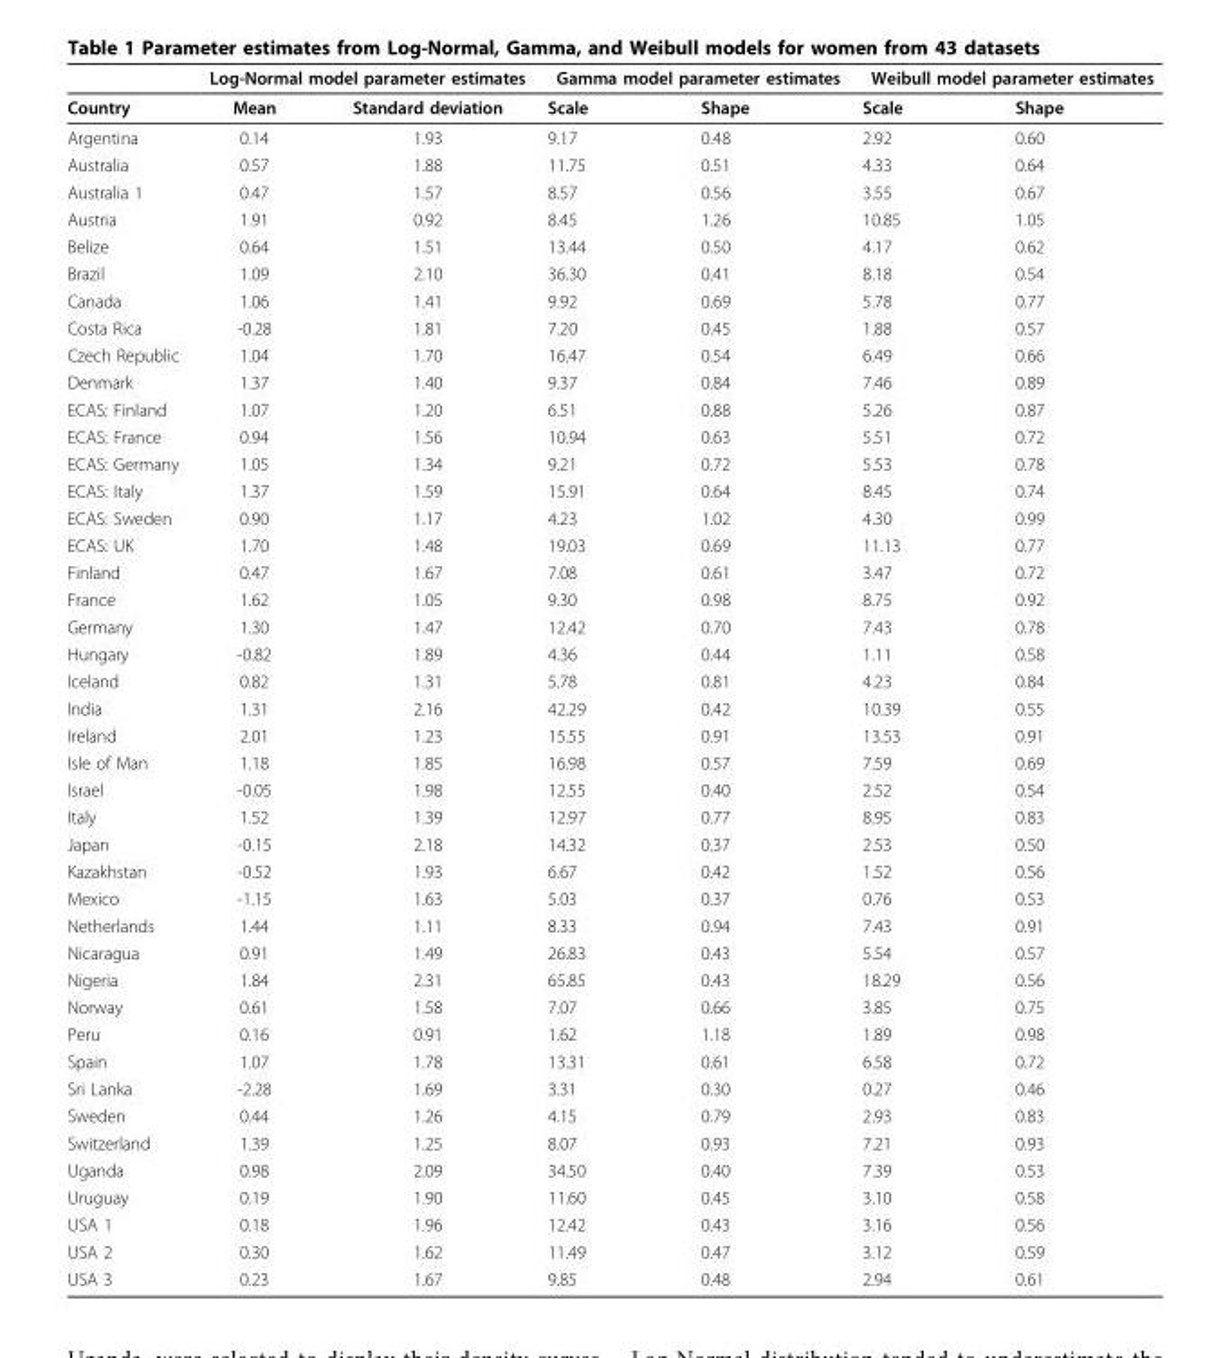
<table><thead><tr><td rowspan="2">Country</td><td colspan="2">Log-Normal model parameter estimates</td><td colspan="2">Gamma model parameter estimates</td><td colspan="2">Weibull model parameter estimates</td></tr><tr><td>Mean</td><td>Standard deviation</td><td>Scale</td><td>Shape</td><td>Scale</td><td>Shape</td></tr></thead><tbody><tr><td>Argentina</td><td>0.14</td><td>1.93</td><td>9.17</td><td>0.48</td><td>2.92</td><td>0.60</td></tr><tr><td>Australia</td><td>0.57</td><td>1.88</td><td>11.75</td><td>0.51</td><td>4.33</td><td>0.64</td></tr><tr><td>Australia 1</td><td>0.47</td><td>1.57</td><td>8.57</td><td>0.56</td><td>3.55</td><td>0.67</td></tr><tr><td>Austria</td><td>1.91</td><td>0.92</td><td>8.45</td><td>1.26</td><td>10.85</td><td>1.05</td></tr><tr><td>Belize</td><td>0.64</td><td>1.51</td><td>13.44</td><td>0.50</td><td>4.17</td><td>0.62</td></tr><tr><td>Brazil</td><td>1.09</td><td>2.10</td><td>36.30</td><td>0.41</td><td>8.18</td><td>0.54</td></tr><tr><td>Canada</td><td>1.06</td><td>1.41</td><td>9.92</td><td>0.69</td><td>5.78</td><td>0.77</td></tr><tr><td>Costa Rica</td><td>-0.28</td><td>1.81</td><td>7.20</td><td>0.45</td><td>1.88</td><td>0.57</td></tr><tr><td>Czech Republic</td><td>1.04</td><td>1.70</td><td>16.47</td><td>0.54</td><td>6.49</td><td>0.66</td></tr><tr><td>Denmark</td><td>1.37</td><td>1.40</td><td>9.37</td><td>0.84</td><td>7.46</td><td>0.89</td></tr><tr><td>ECAS: Finland</td><td>1.07</td><td>1.20</td><td>6.51</td><td>0.88</td><td>5.26</td><td>0.87</td></tr><tr><td>ECAS: France</td><td>0.94</td><td>1.56</td><td>10.94</td><td>0.63</td><td>5.51</td><td>0.72</td></tr><tr><td>ECAS: Germany</td><td>1.05</td><td>1.34</td><td>9.21</td><td>0.72</td><td>5.53</td><td>0.78</td></tr><tr><td>ECAS: Italy</td><td>1.37</td><td>1.59</td><td>15.91</td><td>0.64</td><td>8.45</td><td>0.74</td></tr><tr><td>ECAS: Sweden</td><td>0.90</td><td>1.17</td><td>4.23</td><td>1.02</td><td>4.30</td><td>0.99</td></tr><tr><td>ECAS: UK</td><td>1.70</td><td>1.48</td><td>19.03</td><td>0.69</td><td>11.13</td><td>0.77</td></tr><tr><td>Finland</td><td>0.47</td><td>1.67</td><td>7.08</td><td>0.61</td><td>3.47</td><td>0.72</td></tr><tr><td>France</td><td>1.62</td><td>1.05</td><td>9.30</td><td>0.98</td><td>8.75</td><td>0.92</td></tr><tr><td>Germany</td><td>1.30</td><td>1.47</td><td>12.42</td><td>0.70</td><td>7.43</td><td>0.78</td></tr><tr><td>Hungary</td><td>-0.82</td><td>1.89</td><td>4.36</td><td>0.44</td><td>1.11</td><td>0.58</td></tr><tr><td>Iceland</td><td>0.82</td><td>1.31</td><td>5.78</td><td>0.81</td><td>4.23</td><td>0.84</td></tr><tr><td>India</td><td>1.31</td><td>2.16</td><td>42.29</td><td>0.42</td><td>10.39</td><td>0.55</td></tr><tr><td>Ireland</td><td>2.01</td><td>1.23</td><td>15.55</td><td>0.91</td><td>13.53</td><td>0.91</td></tr><tr><td>Isle of Man</td><td>1.18</td><td>1.85</td><td>16.98</td><td>0.57</td><td>7.59</td><td>0.69</td></tr><tr><td>Israel</td><td>-0.05</td><td>1.98</td><td>12.55</td><td>0.40</td><td>2.52</td><td>0.54</td></tr><tr><td>Italy</td><td>1.52</td><td>1.39</td><td>12.97</td><td>0.77</td><td>8.95</td><td>0.83</td></tr><tr><td>Japan</td><td>-0.15</td><td>2.18</td><td>14.32</td><td>0.37</td><td>2.53</td><td>0.50</td></tr><tr><td>Kazakhstan</td><td>-0.52</td><td>1.93</td><td>6.67</td><td>0.42</td><td>1.52</td><td>0.56</td></tr><tr><td>Mexico</td><td>-1.15</td><td>1.63</td><td>5.03</td><td>0.37</td><td>0.76</td><td>0.53</td></tr><tr><td>Netherlands</td><td>1.44</td><td>1.11</td><td>8.33</td><td>0.94</td><td>7.43</td><td>0.91</td></tr><tr><td>Nicaragua</td><td>0.91</td><td>1.49</td><td>26.83</td><td>0.43</td><td>5.54</td><td>0.57</td></tr><tr><td>Nigeria</td><td>1.84</td><td>2.31</td><td>65.85</td><td>0.43</td><td>18.29</td><td>0.56</td></tr><tr><td>Norway</td><td>0.61</td><td>1.58</td><td>7.07</td><td>0.66</td><td>3.85</td><td>0.75</td></tr><tr><td>Peru</td><td>0.16</td><td>0.91</td><td>1.62</td><td>1.18</td><td>1.89</td><td>0.98</td></tr><tr><td>Spain</td><td>1.07</td><td>1.78</td><td>13.31</td><td>0.61</td><td>6.58</td><td>0.72</td></tr><tr><td>Sri Lanka</td><td>-2.28</td><td>1.69</td><td>3.31</td><td>0.30</td><td>0.27</td><td>0.46</td></tr><tr><td>Sweden</td><td>0.44</td><td>1.26</td><td>4.15</td><td>0.79</td><td>2.93</td><td>0.83</td></tr><tr><td>Switzerland</td><td>1.39</td><td>1.25</td><td>8.07</td><td>0.93</td><td>7.21</td><td>0.93</td></tr><tr><td>Uganda</td><td>0.98</td><td>2.09</td><td>34.50</td><td>0.40</td><td>7.39</td><td>0.53</td></tr><tr><td>Uruguay</td><td>0.19</td><td>1.90</td><td>11.60</td><td>0.45</td><td>3.10</td><td>0.58</td></tr><tr><td>USA 1</td><td>0.18</td><td>1.96</td><td>12.42</td><td>0.43</td><td>3.16</td><td>0.56</td></tr><tr><td>USA 2</td><td>0.30</td><td>1.62</td><td>11.49</td><td>0.47</td><td>3.12</td><td>0.59</td></tr><tr><td>USA 3</td><td>0.23</td><td>1.67</td><td>9.85</td><td>0.48</td><td>2.94</td><td>0.61</td></tr></tbody></table>